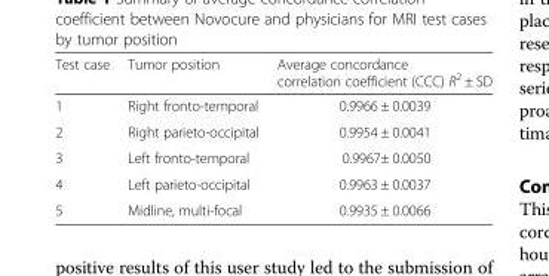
<table><thead><tr><td>Test case</td><td>Tumor position</td><td>Average concordance correlation coefficient (CCC) R<sup>2</sup> ± SD</td></tr></thead><tbody><tr><td>1</td><td>Right fronto-temporal</td><td>0.9966 ± 0.0039</td></tr><tr><td>2</td><td>Right parieto-occipital</td><td>0.9954 ± 0.0041</td></tr><tr><td>3</td><td>Left fronto-temporal</td><td>0.9967± 0.0050</td></tr><tr><td>4</td><td>Left parieto-occipital</td><td>0.9963 ± 0.0037</td></tr><tr><td>5</td><td>Midline, multi-focal</td><td>0.9935 ± 0.0066</td></tr></tbody></table>